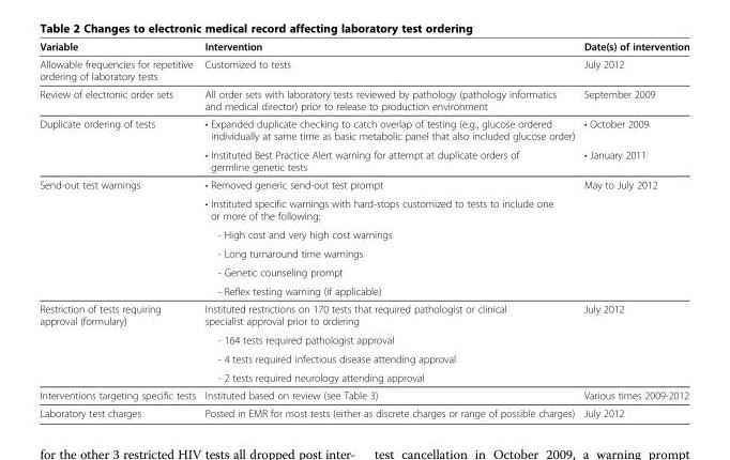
<table><thead><tr><td>Variable</td><td>Intervention</td><td>Date(s) of intervention</td></tr></thead><tbody><tr><td>Allowable frequencies for repetitive ordering of laboratory tests</td><td>Customized to tests</td><td>July 2012</td></tr><tr><td>Review of electronic order sets</td><td>All order sets with laboratory tests reviewed by pathology (pathology informatics and medical director) prior to release to production environment</td><td>September 2009</td></tr><tr><td rowspan="2">Duplicate ordering of tests</td><td>• Expanded duplicate checking to catch overlap of testing (e.g., glucose ordered individually at same time as basic metabolic panel that also included glucose order)</td><td>• October 2009</td></tr><tr><td>• Instituted Best Practice Alert warning for attempt at duplicate orders of germline genetic tests</td><td>• January 2011</td></tr><tr><td rowspan="6">Send-out test warnings</td><td>• Removed generic send-out test prompt</td><td rowspan="6">May to July 2012</td></tr><tr><td>• Instituted specific warnings with hard-stops customized to tests to include one or more of the following:</td></tr><tr><td>- High cost and very high cost warnings</td></tr><tr><td>- Long turnaround time warnings</td></tr><tr><td>- Genetic counseling prompt</td></tr><tr><td>- Reflex testing warning (if applicable)</td></tr><tr><td rowspan="4">Restriction of tests requiring approval (formulary)</td><td>Instituted restrictions on 170 tests that required pathologist or clinical specialist approval prior to ordering</td><td rowspan="4">July 2012</td></tr><tr><td>- 164 tests required pathologist approval</td></tr><tr><td>- 4 tests required infectious disease attending approval</td></tr><tr><td>- 2 tests required neurology attending approval</td></tr><tr><td>Interventions targeting specific tests</td><td>Instituted based on review (see Table 3)</td><td>Various times 2009-2012</td></tr><tr><td>Laboratory test charges</td><td>Posted in EMR for most tests (either as discrete charges or range of possible charges)</td><td>July 2012</td></tr></tbody></table>